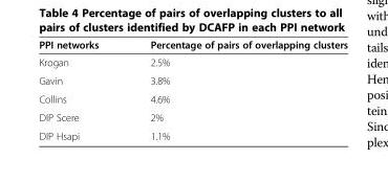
<table><thead><tr><td>PPI networks</td><td>Percentage of pairs of overlapping clusters</td></tr></thead><tbody><tr><td>Krogan</td><td>2.5%</td></tr><tr><td>Gavin</td><td>3.8%</td></tr><tr><td>Collins</td><td>4.6%</td></tr><tr><td>DIP Scere</td><td>2%</td></tr><tr><td>DIP Hsapi</td><td>1.1%</td></tr></tbody></table>